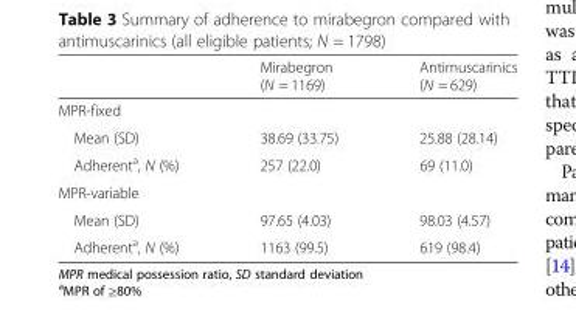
<table><thead><tr><td></td><td>Mirabegron (N = 1169)</td><td>Antimuscarinics (N = 629)</td></tr></thead><tbody><tr><td colspan="3">MPR-fixed</td></tr><tr><td>Mean (SD)</td><td>38.69 (33.75)</td><td>25.88 (28.14)</td></tr><tr><td>Adherent<sup>a</sup>, N (%)</td><td>257 (22.0)</td><td>69 (11.0)</td></tr><tr><td colspan="3">MPR-variable</td></tr><tr><td>Mean (SD)</td><td>97.65 (4.03)</td><td>98.03 (4.57)</td></tr><tr><td>Adherent<sup>a</sup>, N (%)</td><td>1163 (99.5)</td><td>619 (98.4)</td></tr></tbody></table>